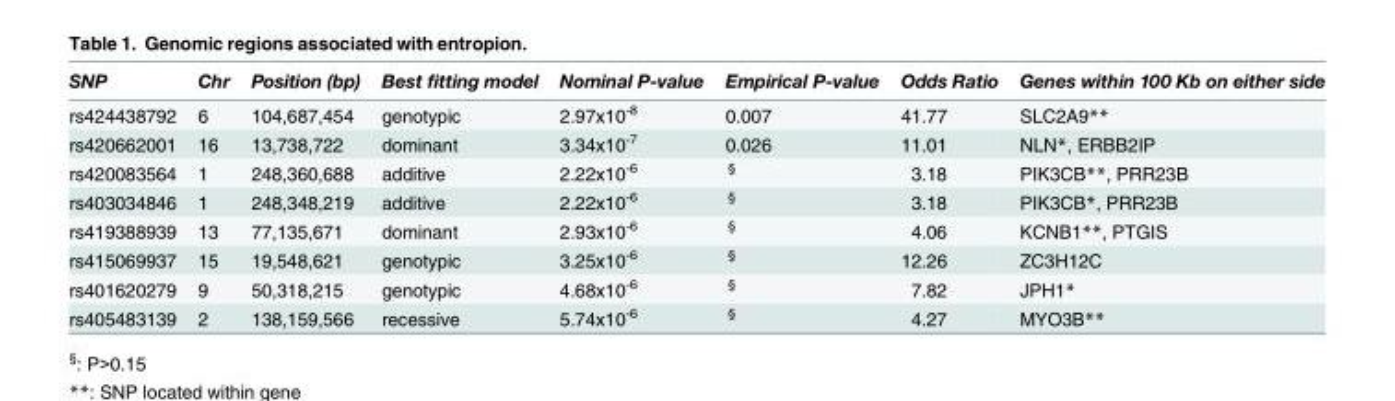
<table><thead><tr><td>SNP</td><td>Chr</td><td>Position (bp)</td><td>Best fitting model</td><td>Nominal P-value</td><td>Empirical P-value</td><td>Odds Ratio</td><td>Genes within 100 Kb on either side</td></tr></thead><tbody><tr><td>rs424438792</td><td>6</td><td>104,687,454</td><td>genotypic</td><td>2.97x10<sup>-8</sup></td><td>0.007</td><td>41.77</td><td>SLC2A9**</td></tr><tr><td>rs420662001</td><td>16</td><td>13,738,722</td><td>dominant</td><td>3.34x10<sup>-7</sup></td><td>0.026</td><td>11.01</td><td>NLN*, ERBB2IP</td></tr><tr><td>rs420083564</td><td>1</td><td>248,360,688</td><td>additive</td><td>2.22x10<sup>-6</sup></td><td><sup>§</sup></td><td>3.18</td><td>PIK3CB**, PRR23B</td></tr><tr><td>rs403034846</td><td>1</td><td>248,348,219</td><td>additive</td><td>2.22x10<sup>-6</sup></td><td><sup>§</sup></td><td>3.18</td><td>PIK3CB*, PRR23B</td></tr><tr><td>rs419388939</td><td>13</td><td>77,135,671</td><td>dominant</td><td>2.93x10<sup>-6</sup></td><td><sup>§</sup></td><td>4.06</td><td>KCNB1**, PTGIS</td></tr><tr><td>rs415069937</td><td>15</td><td>19,548,621</td><td>genotypic</td><td>3.25x10<sup>-6</sup></td><td><sup>§</sup></td><td>12.26</td><td>ZC3H12C</td></tr><tr><td>rs401620279</td><td>9</td><td>50,318,215</td><td>genotypic</td><td>4.68x10<sup>-6</sup></td><td><sup>§</sup></td><td>7.82</td><td>JPH1*</td></tr><tr><td>rs405483139</td><td>2</td><td>138,159,566</td><td>recessive</td><td>5.74x10<sup>-6</sup></td><td><sup>§</sup></td><td>4.27</td><td>MYO3B**</td></tr></tbody></table>